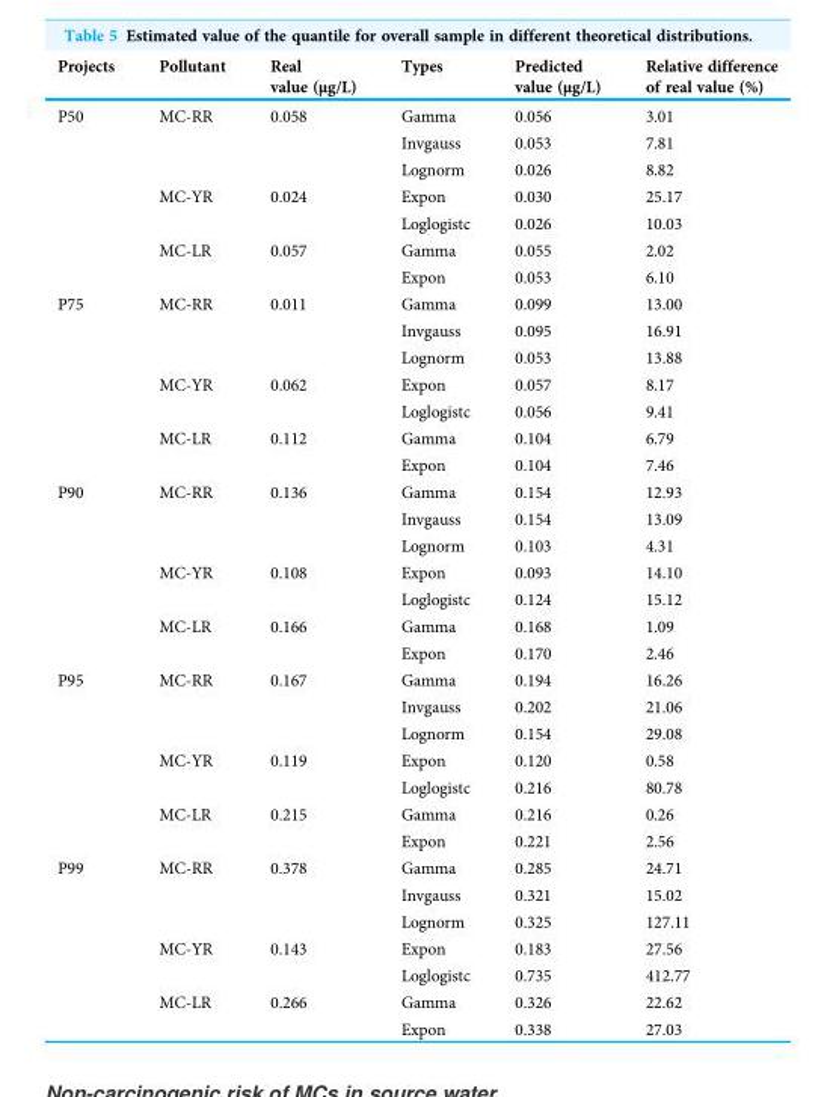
<table><thead><tr><td>Projects</td><td>Pollutant</td><td>Real value (μg/L)</td><td>Types</td><td>Predicted value (μg/L)</td><td>Relative difference of real value (%)</td></tr></thead><tbody><tr><td rowspan="7">P50</td><td rowspan="3">MC-RR</td><td rowspan="3">0.058</td><td>Gamma</td><td>0.056</td><td>3.01</td></tr><tr><td>Invgauss</td><td>0.053</td><td>7.81</td></tr><tr><td>Lognorm</td><td>0.026</td><td>8.82</td></tr><tr><td rowspan="2">MC-YR</td><td rowspan="2">0.024</td><td>Expon</td><td>0.030</td><td>25.17</td></tr><tr><td>Loglogistc</td><td>0.026</td><td>10.03</td></tr><tr><td rowspan="2">MC-LR</td><td rowspan="2">0.057</td><td>Gamma</td><td>0.055</td><td>2.02</td></tr><tr><td>Expon</td><td>0.053</td><td>6.10</td></tr><tr><td rowspan="7">P75</td><td rowspan="3">MC-RR</td><td rowspan="3">0.011</td><td>Gamma</td><td>0.099</td><td>13.00</td></tr><tr><td>Invgauss</td><td>0.095</td><td>16.91</td></tr><tr><td>Lognorm</td><td>0.053</td><td>13.88</td></tr><tr><td rowspan="2">MC-YR</td><td rowspan="2">0.062</td><td>Expon</td><td>0.057</td><td>8.17</td></tr><tr><td>Loglogistc</td><td>0.056</td><td>9.41</td></tr><tr><td rowspan="2">MC-LR</td><td rowspan="2">0.112</td><td>Gamma</td><td>0.104</td><td>6.79</td></tr><tr><td>Expon</td><td>0.104</td><td>7.46</td></tr><tr><td rowspan="7">P90</td><td rowspan="3">MC-RR</td><td rowspan="3">0.136</td><td>Gamma</td><td>0.154</td><td>12.93</td></tr><tr><td>Invgauss</td><td>0.154</td><td>13.09</td></tr><tr><td>Lognorm</td><td>0.103</td><td>4.31</td></tr><tr><td rowspan="2">MC-YR</td><td rowspan="2">0.108</td><td>Expon</td><td>0.093</td><td>14.10</td></tr><tr><td>Loglogistc</td><td>0.124</td><td>15.12</td></tr><tr><td rowspan="2">MC-LR</td><td rowspan="2">0.166</td><td>Gamma</td><td>0.168</td><td>1.09</td></tr><tr><td>Expon</td><td>0.170</td><td>2.46</td></tr><tr><td rowspan="7">P95</td><td rowspan="3">MC-RR</td><td rowspan="3">0.167</td><td>Gamma</td><td>0.194</td><td>16.26</td></tr><tr><td>Invgauss</td><td>0.202</td><td>21.06</td></tr><tr><td>Lognorm</td><td>0.154</td><td>29.08</td></tr><tr><td rowspan="2">MC-YR</td><td rowspan="2">0.119</td><td>Expon</td><td>0.120</td><td>0.58</td></tr><tr><td>Loglogistc</td><td>0.216</td><td>80.78</td></tr><tr><td rowspan="2">MC-LR</td><td rowspan="2">0.215</td><td>Gamma</td><td>0.216</td><td>0.26</td></tr><tr><td>Expon</td><td>0.221</td><td>2.56</td></tr><tr><td rowspan="7">P99</td><td rowspan="3">MC-RR</td><td rowspan="3">0.378</td><td>Gamma</td><td>0.285</td><td>24.71</td></tr><tr><td>Invgauss</td><td>0.321</td><td>15.02</td></tr><tr><td>Lognorm</td><td>0.325</td><td>127.11</td></tr><tr><td rowspan="2">MC-YR</td><td rowspan="2">0.143</td><td>Expon</td><td>0.183</td><td>27.56</td></tr><tr><td>Loglogistc</td><td>0.735</td><td>412.77</td></tr><tr><td rowspan="2">MC-LR</td><td rowspan="2">0.266</td><td>Gamma</td><td>0.326</td><td>22.62</td></tr><tr><td>Expon</td><td>0.338</td><td>27.03</td></tr></tbody></table>